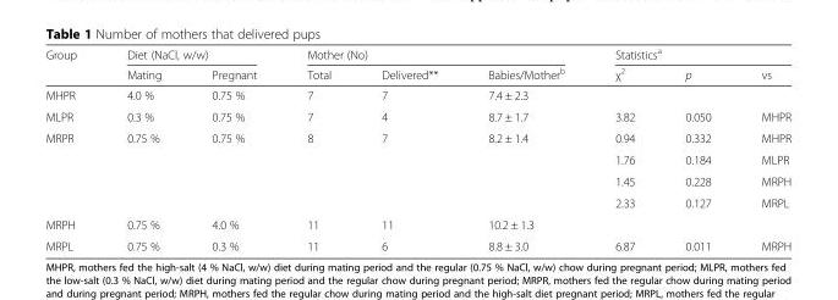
<table><thead><tr><td rowspan="2">Group</td><td colspan="2">Diet (NaCl, w/w)</td><td colspan="3">Mother (No)</td><td colspan="3">Statistics<sup>a</sup></td></tr><tr><td>Mating</td><td>Pregnant</td><td>Total</td><td>Delivered**</td><td>Babies/Mother<sup>b</sup></td><td>χ<sup>2</sup></td><td>p</td><td>vs</td></tr></thead><tbody><tr><td>MHPR</td><td>4.0 %</td><td>0.75 %</td><td>7</td><td>7</td><td>7.4 ± 2.3</td><td></td><td></td><td></td></tr><tr><td>MLPR</td><td>0.3 %</td><td>0.75 %</td><td>7</td><td>4</td><td>8.7 ± 1.7</td><td>3.82</td><td>0.050</td><td>MHPR</td></tr><tr><td rowspan="4">MRPR</td><td rowspan="4">0.75 %</td><td rowspan="4">0.75 %</td><td rowspan="4">8</td><td rowspan="4">7</td><td rowspan="4">8.2 ± 1.4</td><td>0.94</td><td>0.332</td><td>MHPR</td></tr><tr><td>1.76</td><td>0.184</td><td>MLPR</td></tr><tr><td>1.45</td><td>0.228</td><td>MRPH</td></tr><tr><td>2.33</td><td>0.127</td><td>MRPL</td></tr><tr><td>MRPH</td><td>0.75 %</td><td>4.0 %</td><td>11</td><td>11</td><td>10.2 ± 1.3</td><td></td><td></td><td></td></tr><tr><td>MRPL</td><td>0.75 %</td><td>0.3 %</td><td>11</td><td>6</td><td>8.8 ± 3.0</td><td>6.87</td><td>0.011</td><td>MRPH</td></tr></tbody></table>